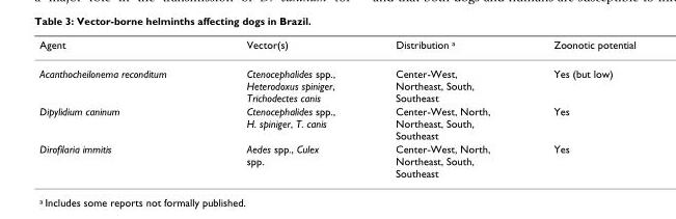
<table><thead><tr><td>Agent</td><td>Vector(s)</td><td>Distribution <sup>a</sup></td><td>Zoonotic potential</td></tr></thead><tbody><tr><td>Acanthocheilonema reconditum</td><td>Ctenocephalides spp., Heterodoxus spiniger, Trichodectes canis</td><td>Center-West, Northeast, South, Southeast</td><td>Yes (but low)</td></tr><tr><td>Dipylidium caninum</td><td>Ctenocephalides spp., H. spiniger, T. canis</td><td>Center-West, North, Northeast, South, Southeast</td><td>Yes</td></tr><tr><td>Dirofilaria immitis</td><td>Aedes spp., Culex spp.</td><td>Center-West, North, Northeast, South, Southeast</td><td>Yes</td></tr></tbody></table>